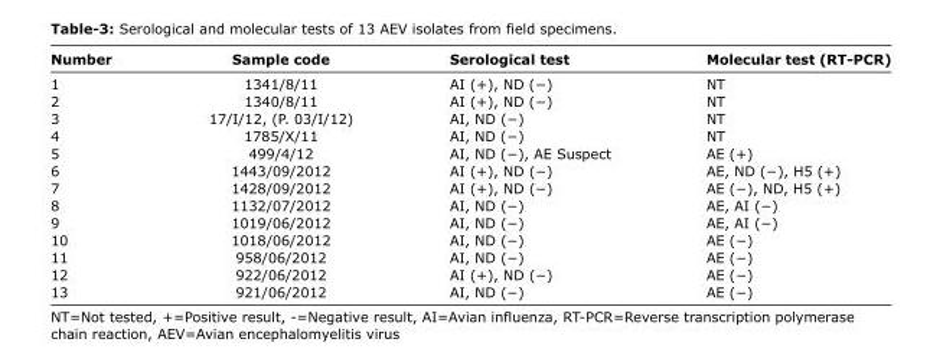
<table><thead><tr><td>Number</td><td>Sample code</td><td>Serological test</td><td>Molecular test (RT-PCR)</td></tr></thead><tbody><tr><td>1</td><td>1341/8/11</td><td>AI (+), ND (−)</td><td>NT</td></tr><tr><td>2</td><td>1340/8/11</td><td>AI (+), ND (−)</td><td>NT</td></tr><tr><td>3</td><td>17/I/12, (P. 03/I/12)</td><td>AI, ND (−)</td><td>NT</td></tr><tr><td>4</td><td>1785/X/11</td><td>AI, ND (−)</td><td>NT</td></tr><tr><td>5</td><td>499/4/12</td><td>AI, ND (−), AE Suspect</td><td>AE (+)</td></tr><tr><td>6</td><td>1443/09/2012</td><td>AI (+), ND (−)</td><td>AE, ND (−), H5 (+)</td></tr><tr><td>7</td><td>1428/09/2012</td><td>AI (+), ND (−)</td><td>AE (−), ND, H5 (+)</td></tr><tr><td>8</td><td>1132/07/2012</td><td>AI, ND (−)</td><td>AE, AI (−)</td></tr><tr><td>9</td><td>1019/06/2012</td><td>AI, ND (−)</td><td>AE, AI (−)</td></tr><tr><td>10</td><td>1018/06/2012</td><td>AI, ND (−)</td><td>AE (−)</td></tr><tr><td>11</td><td>958/06/2012</td><td>AI, ND (−)</td><td>AE (−)</td></tr><tr><td>12</td><td>922/06/2012</td><td>AI (+), ND (−)</td><td>AE (−)</td></tr><tr><td>13</td><td>921/06/2012</td><td>AI, ND (−)</td><td>AE (−)</td></tr></tbody></table>